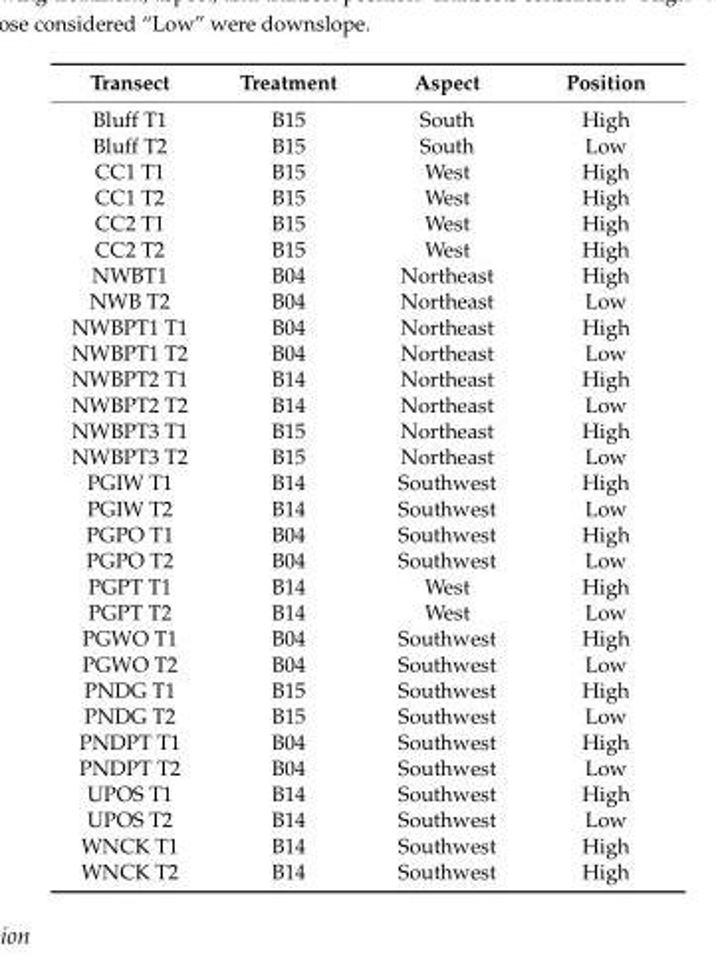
<table><thead><tr><td>Transect</td><td>Treatment</td><td>Aspect</td><td>Position</td></tr></thead><tbody><tr><td>Bluff T1</td><td>B15</td><td>South</td><td>High</td></tr><tr><td>Bluff T2</td><td>B15</td><td>South</td><td>Low</td></tr><tr><td>CC1 T1</td><td>B15</td><td>West</td><td>High</td></tr><tr><td>CC1 T2</td><td>B15</td><td>West</td><td>High</td></tr><tr><td>CC2 T1</td><td>B15</td><td>West</td><td>High</td></tr><tr><td>CC2 T2</td><td>B15</td><td>West</td><td>High</td></tr><tr><td>NWBT1</td><td>B04</td><td>Northeast</td><td>High</td></tr><tr><td>NWB T2</td><td>B04</td><td>Northeast</td><td>Low</td></tr><tr><td>NWBPT1 T1</td><td>B04</td><td>Northeast</td><td>High</td></tr><tr><td>NWBPT1 T2</td><td>B04</td><td>Northeast</td><td>Low</td></tr><tr><td>NWBPT2 T1</td><td>B14</td><td>Northeast</td><td>High</td></tr><tr><td>NWBPT2 T2</td><td>B14</td><td>Northeast</td><td>Low</td></tr><tr><td>NWBPT3 T1</td><td>B15</td><td>Northeast</td><td>High</td></tr><tr><td>NWBPT3 T2</td><td>B15</td><td>Northeast</td><td>Low</td></tr><tr><td>PGIW T1</td><td>B14</td><td>Southwest</td><td>High</td></tr><tr><td>PGIW T2</td><td>B14</td><td>Southwest</td><td>Low</td></tr><tr><td>PGPO T1</td><td>B04</td><td>Southwest</td><td>High</td></tr><tr><td>PGPO T2</td><td>B04</td><td>Southwest</td><td>Low</td></tr><tr><td>PGPT T1</td><td>B14</td><td>West</td><td>High</td></tr><tr><td>PGPT T2</td><td>B14</td><td>West</td><td>Low</td></tr><tr><td>PGWO T1</td><td>B04</td><td>Southwest</td><td>High</td></tr><tr><td>PGWO T2</td><td>B04</td><td>Southwest</td><td>Low</td></tr><tr><td>PNDG T1</td><td>B15</td><td>Southwest</td><td>High</td></tr><tr><td>PNDG T2</td><td>B15</td><td>Southwest</td><td>Low</td></tr><tr><td>PNDPT T1</td><td>B04</td><td>Southwest</td><td>High</td></tr><tr><td>PNDPT T2</td><td>B04</td><td>Southwest</td><td>Low</td></tr><tr><td>UPOS T1</td><td>B14</td><td>Southwest</td><td>High</td></tr><tr><td>UPOS T2</td><td>B14</td><td>Southwest</td><td>Low</td></tr><tr><td>WNCK T1</td><td>B14</td><td>Southwest</td><td>High</td></tr><tr><td>WNCK T2</td><td>B14</td><td>Southwest</td><td>High</td></tr></tbody></table>